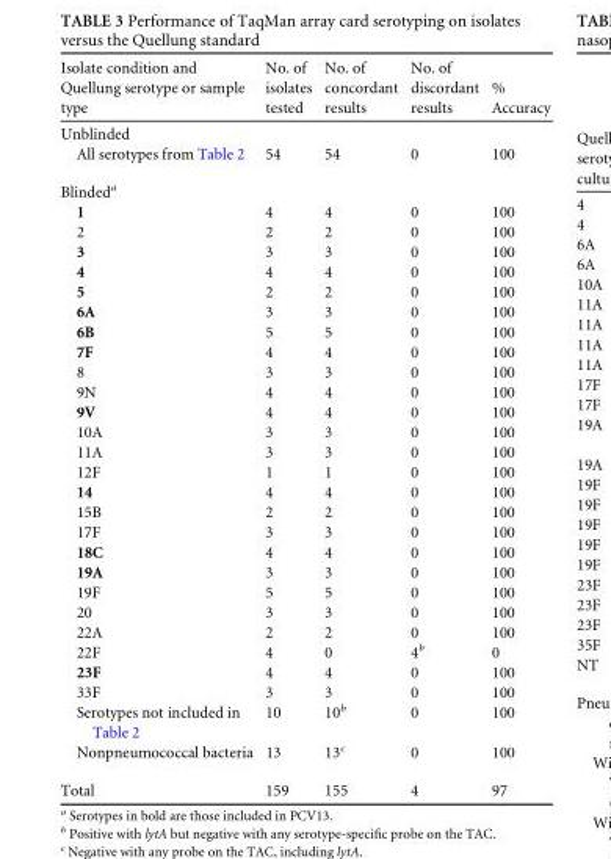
<table><thead><tr><td>Isolate condition and Quellung serotype or sample type</td><td>No. of isolates tested</td><td>No. of concordant results</td><td>No. of discordant results</td><td>% Accuracy</td></tr></thead><tbody><tr><td colspan="5">Unblinded</td></tr><tr><td>All serotypes from Table 2</td><td>54</td><td>54</td><td>0</td><td>100</td></tr><tr><td colspan="5">Blinded<sup>a</sup></td></tr><tr><td>1</td><td>4</td><td>4</td><td>0</td><td>100</td></tr><tr><td>2</td><td>2</td><td>2</td><td>0</td><td>100</td></tr><tr><td>3</td><td>3</td><td>3</td><td>0</td><td>100</td></tr><tr><td>4</td><td>4</td><td>4</td><td>0</td><td>100</td></tr><tr><td>5</td><td>2</td><td>2</td><td>0</td><td>100</td></tr><tr><td>6A</td><td>3</td><td>3</td><td>0</td><td>100</td></tr><tr><td>6B</td><td>5</td><td>5</td><td>0</td><td>100</td></tr><tr><td>7F</td><td>4</td><td>4</td><td>0</td><td>100</td></tr><tr><td>8</td><td>3</td><td>3</td><td>0</td><td>100</td></tr><tr><td>9N</td><td>4</td><td>4</td><td>0</td><td>100</td></tr><tr><td>9V</td><td>4</td><td>4</td><td>0</td><td>100</td></tr><tr><td>10A</td><td>3</td><td>3</td><td>0</td><td>100</td></tr><tr><td>11A</td><td>3</td><td>3</td><td>0</td><td>100</td></tr><tr><td>12F</td><td>1</td><td>1</td><td>0</td><td>100</td></tr><tr><td>14</td><td>4</td><td>4</td><td>0</td><td>100</td></tr><tr><td>15B</td><td>2</td><td>2</td><td>0</td><td>100</td></tr><tr><td>17F</td><td>3</td><td>3</td><td>0</td><td>100</td></tr><tr><td>18C</td><td>4</td><td>4</td><td>0</td><td>100</td></tr><tr><td>19A</td><td>3</td><td>3</td><td>0</td><td>100</td></tr><tr><td>19F</td><td>5</td><td>5</td><td>0</td><td>100</td></tr><tr><td>20</td><td>3</td><td>3</td><td>0</td><td>100</td></tr><tr><td>22A</td><td>2</td><td>2</td><td>0</td><td>100</td></tr><tr><td>22F</td><td>4</td><td>0</td><td>4<sup>b</sup></td><td>0</td></tr><tr><td>23F</td><td>4</td><td>4</td><td>0</td><td>100</td></tr><tr><td>33F</td><td>3</td><td>3</td><td>0</td><td>100</td></tr><tr><td>Serotypes not included in Table 2</td><td>10</td><td>10<sup>b</sup></td><td>0</td><td>100</td></tr><tr><td>Nonpneumococcal bacteria</td><td>13</td><td>13<sup>c</sup></td><td>0</td><td>100</td></tr><tr><td>Total</td><td>159</td><td>155</td><td>4</td><td>97</td></tr></tbody></table>